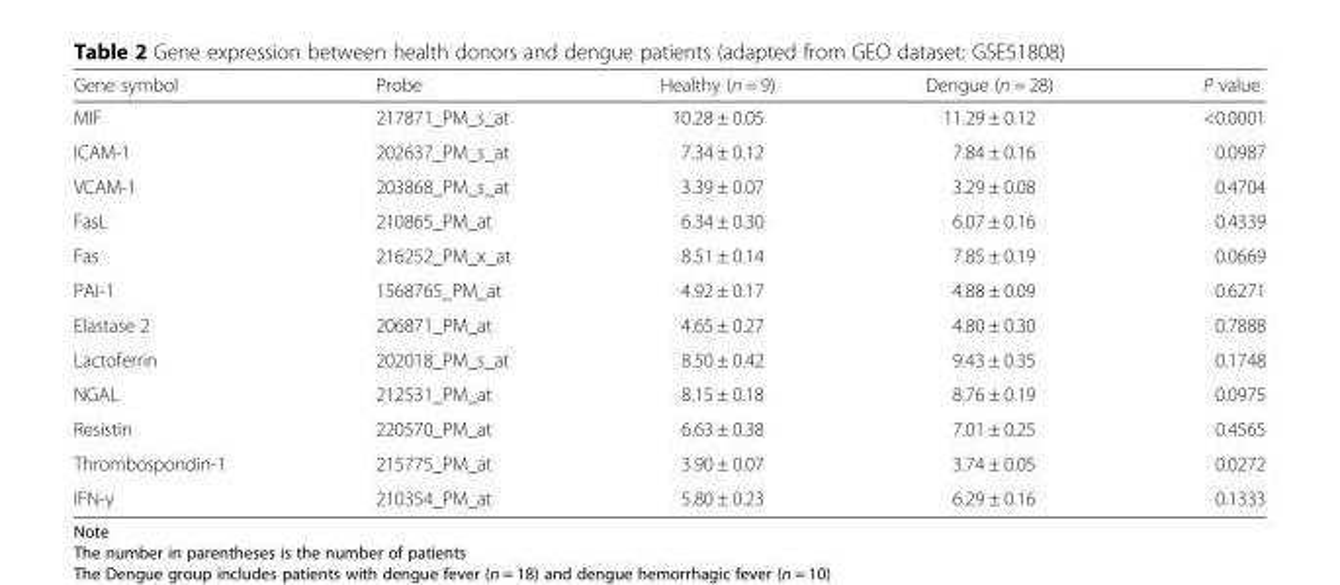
<table><thead><tr><td>Gene symbol</td><td>Probe</td><td>Healthy (n = 9)</td><td>Dengue (n = 28)</td><td>P value</td></tr></thead><tbody><tr><td>MIF</td><td>217871_PM_s_at</td><td>10.28 ± 0.05</td><td>11.29 ± 0.12</td><td>&lt;0.0001</td></tr><tr><td>ICAM-1</td><td>202637_PM_s_at</td><td>7.34 ± 0.12</td><td>7.84 ± 0.16</td><td>0.0987</td></tr><tr><td>VCAM-1</td><td>203868_PM_s_at</td><td>3.39 ± 0.07</td><td>3.29 ± 0.08</td><td>0.4704</td></tr><tr><td>FasL</td><td>210865_PM_at</td><td>6.34 ± 0.30</td><td>6.07 ± 0.16</td><td>0.4339</td></tr><tr><td>Fas</td><td>216252_PM_x_at</td><td>8.51 ± 0.14</td><td>7.85 ± 0.19</td><td>0.0669</td></tr><tr><td>PAI-1</td><td>1568765_PM_at</td><td>4.92 ± 0.17</td><td>4.88 ± 0.09</td><td>0.6271</td></tr><tr><td>Elastase 2</td><td>206871_PM_at</td><td>4.65 ± 0.27</td><td>4.80 ± 0.30</td><td>0.7888</td></tr><tr><td>Lactoferrin</td><td>202018_PM_s_at</td><td>8.50 ± 0.42</td><td>9.43 ± 0.35</td><td>0.1748</td></tr><tr><td>NGAL</td><td>212531_PM_at</td><td>8.15 ± 0.18</td><td>8.76 ± 0.19</td><td>0.0975</td></tr><tr><td>Resistin</td><td>220570_PM_at</td><td>6.63 ± 0.38</td><td>7.01 ± 0.25</td><td>0.4565</td></tr><tr><td>Thrombospondin-1</td><td>215775_PM_at</td><td>3.90 ± 0.07</td><td>3.74 ± 0.05</td><td>0.0272</td></tr><tr><td>IFN-γ</td><td>210354_PM_at</td><td>5.80 ± 0.23</td><td>6.29 ± 0.16</td><td>0.1333</td></tr></tbody></table>